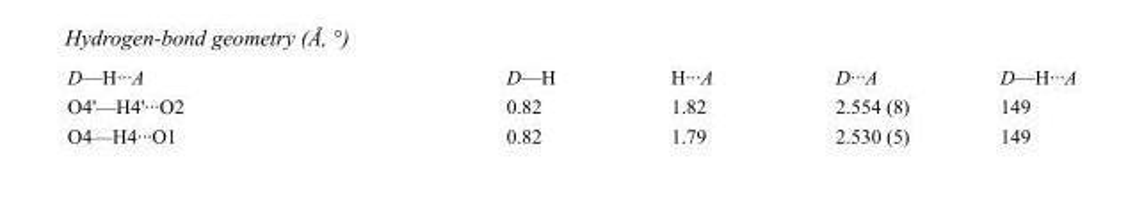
<table><tbody><tr><td>D—H···A</td><td>D—H</td><td>H···A</td><td>D···A</td><td>D—H···A</td></tr><tr><td>O4&#x27;—H4&#x27;···O2</td><td>0.82</td><td>1.82</td><td>2.554 (8)</td><td>149</td></tr><tr><td>O4—H4···O1</td><td>0.82</td><td>1.79</td><td>2.530 (5)</td><td>149</td></tr></tbody></table>